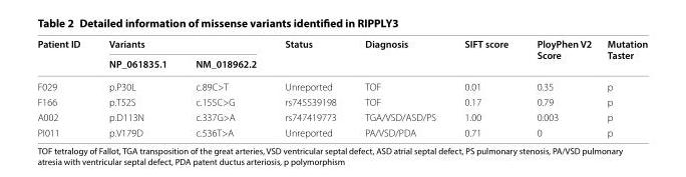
<table><thead><tr><td rowspan="2">Patient ID</td><td colspan="2">Variants</td><td rowspan="2">Status</td><td rowspan="2">Diagnosis</td><td rowspan="2">SIFT score</td><td rowspan="2">PloyPhen V2 Score</td><td rowspan="2">Mutation Taster</td></tr><tr><td>NP_061835.1</td><td>NM_018962.2</td></tr></thead><tbody><tr><td>F029</td><td>p.P30L</td><td>c.89C&gt;T</td><td>Unreported</td><td>TOF</td><td>0.01</td><td>0.35</td><td>p</td></tr><tr><td>F166</td><td>p.T52S</td><td>c.155C&gt;G</td><td>rs745539198</td><td>TOF</td><td>0.17</td><td>0.79</td><td>p</td></tr><tr><td>A002</td><td>p.D113N</td><td>c.337G&gt;A</td><td>rs747419773</td><td>TGA/VSD/ASD/PS</td><td>1.00</td><td>0.003</td><td>p</td></tr><tr><td>PI011</td><td>p.V179D</td><td>c.536T&gt;A</td><td>Unreported</td><td>PA/VSD/PDA</td><td>0.71</td><td>0</td><td>p</td></tr></tbody></table>